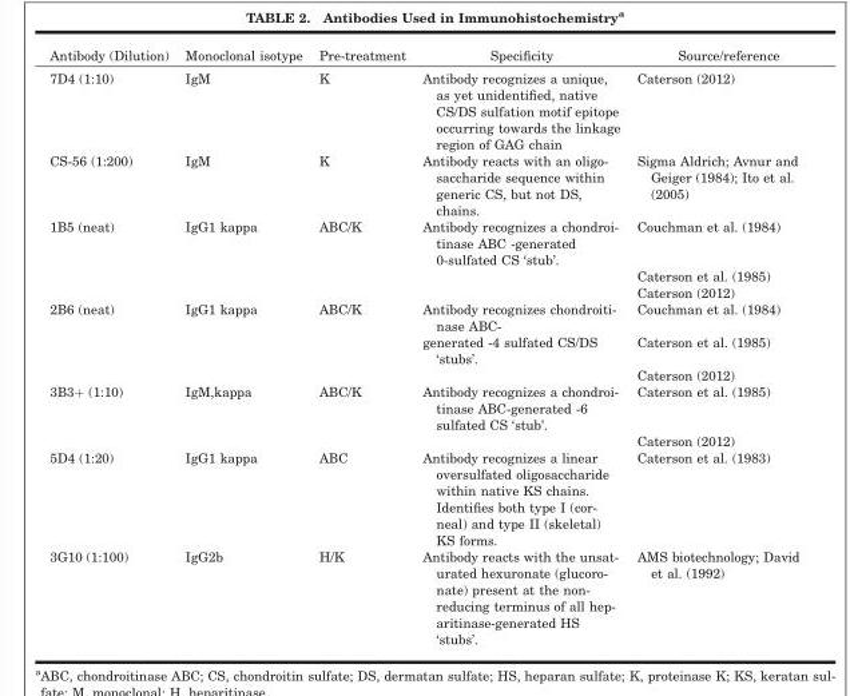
<table><thead><tr><td>Antibody (Dilution)</td><td>Monoclonal isotype</td><td>Pre-treatment</td><td>Specificity</td><td>Source/reference</td></tr></thead><tbody><tr><td>7D4 (1:10)</td><td>IgM</td><td>K</td><td>Antibody recognizes a unique, as yet unidentified, native CS/DS sulfation motif epitope occurring towards the linkage region of GAG chain</td><td>Caterson (2012)</td></tr><tr><td>CS-56 (1:200)</td><td>IgM</td><td>K</td><td>Antibody reacts with an oligo- saccharide sequence within generic CS, but not DS, chains.</td><td>Sigma Aldrich; Avnur and Geiger (1984); Ito et al. (2005)</td></tr><tr><td rowspan="3">1B5 (neat)</td><td>IgG1 kappa</td><td>ABC/K</td><td>Antibody recognizes a chondroi- tinase ABC -generated 0-sulfated CS ‘stub’.</td><td>Couchman et al. (1984)</td></tr><tr><td></td><td></td><td></td><td>Caterson et al. (1985)</td></tr><tr><td></td><td></td><td></td><td>Caterson (2012)</td></tr><tr><td rowspan="3">2B6 (neat)</td><td>IgG1 kappa</td><td>ABC/K</td><td>Antibody recognizes chondroiti- nase ABC-</td><td>Couchman et al. (1984)</td></tr><tr><td></td><td></td><td>generated -4 sulfated CS/DS ‘stubs’.</td><td>Caterson et al. (1985)</td></tr><tr><td></td><td></td><td></td><td>Caterson (2012)</td></tr><tr><td rowspan="2">3B3+ (1:10)</td><td>IgM,kappa</td><td>ABC/K</td><td>Antibody recognizes a chondroi- tinase ABC-generated -6 sulfated CS ‘stub’.</td><td>Caterson et al. (1985)</td></tr><tr><td></td><td></td><td></td><td>Caterson (2012)</td></tr><tr><td>5D4 (1:20)</td><td>IgG1 kappa</td><td>ABC</td><td>Antibody recognizes a linear oversulfated oligosaccharide within native KS chains. Identifies both type I (cor- neal) and type II (skeletal) KS forms.</td><td>Caterson et al. (1983)</td></tr><tr><td>3G10 (1:100)</td><td>IgG2b</td><td>H/K</td><td>Antibody reacts with the unsat- urated hexuronate (glucoro- nate) present at the non- reducing terminus of all hep- aritinase-generated HS ‘stubs’.</td><td>AMS biotechnology; David et al. (1992)</td></tr></tbody></table>